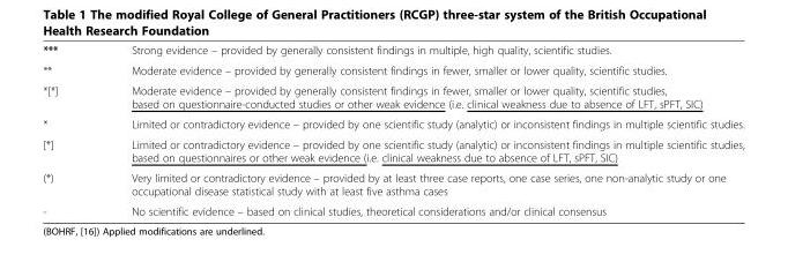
<table><tbody><tr><td>***</td><td>Strong evidence – provided by generally consistent findings in multiple, high quality, scientific studies.</td></tr><tr><td>**</td><td>Moderate evidence – provided by generally consistent findings in fewer, smaller or lower quality, scientific studies.</td></tr><tr><td>*[*]</td><td>Moderate evidence – provided by generally consistent findings in fewer, smaller or lower quality, scientific studies, based on questionnaire-conducted studies or other weak evidence (i.e. clinical weakness due to absence of LFT, sPFT, SIC)</td></tr><tr><td>*</td><td>Limited or contradictory evidence – provided by one scientific study (analytic) or inconsistent findings in multiple scientific studies.</td></tr><tr><td>[*]</td><td>Limited or contradictory evidence – provided by one scientific study (analytic) or inconsistent findings in multiple scientific studies, based on questionnaires or other weak evidence (i.e. clinical weakness due to absence of LFT, sPFT, SIC)</td></tr><tr><td>(*)</td><td>Very limited or contradictory evidence – provided by at least three case reports, one case series, one non-analytic study or one occupational disease statistical study with at least five asthma cases</td></tr><tr><td>-</td><td>No scientific evidence – based on clinical studies, theoretical considerations and/or clinical consensus</td></tr></tbody></table>